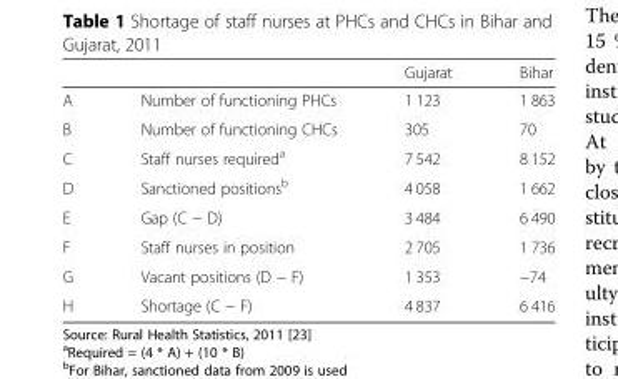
<table><thead><tr><td></td><td></td><td>Gujarat</td><td>Bihar</td></tr></thead><tbody><tr><td>A</td><td>Number of functioning PHCs</td><td>1 123</td><td>1 863</td></tr><tr><td>B</td><td>Number of functioning CHCs</td><td>305</td><td>70</td></tr><tr><td>C</td><td>Staff nurses required<sup>a</sup></td><td>7 542</td><td>8 152</td></tr><tr><td>D</td><td>Sanctioned positions<sup>b</sup></td><td>4 058</td><td>1 662</td></tr><tr><td>E</td><td>Gap (C − D)</td><td>3 484</td><td>6 490</td></tr><tr><td>F</td><td>Staff nurses in position</td><td>2 705</td><td>1 736</td></tr><tr><td>G</td><td>Vacant positions (D − F)</td><td>1 353</td><td>−74</td></tr><tr><td>H</td><td>Shortage (C − F)</td><td>4 837</td><td>6 416</td></tr></tbody></table>